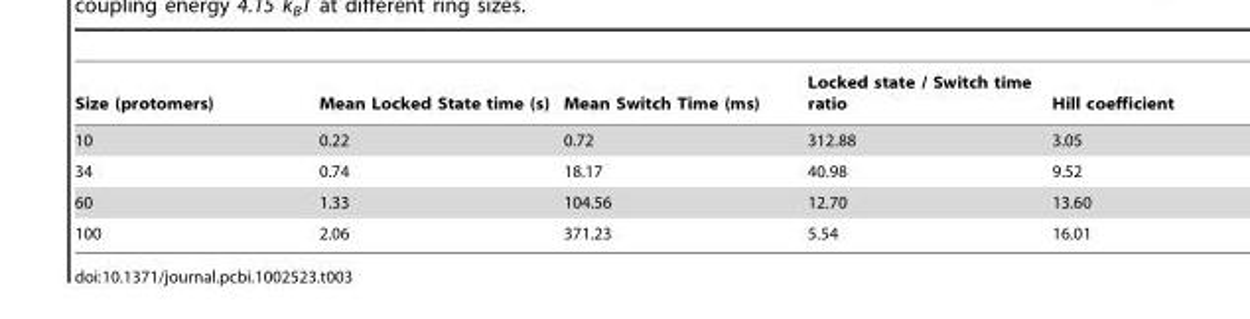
<table><thead><tr><td>Size (protomers)</td><td>Mean Locked State time (s)</td><td>Mean Switch Time (ms)</td><td>Locked state / Switch time ratio</td><td>Hill coefficient</td></tr></thead><tbody><tr><td>10</td><td>0.22</td><td>0.72</td><td>312.88</td><td>3.05</td></tr><tr><td>34</td><td>0.74</td><td>18.17</td><td>40.98</td><td>9.52</td></tr><tr><td>60</td><td>1.33</td><td>104.56</td><td>12.70</td><td>13.60</td></tr><tr><td>100</td><td>2.06</td><td>371.23</td><td>5.54</td><td>16.01</td></tr></tbody></table>